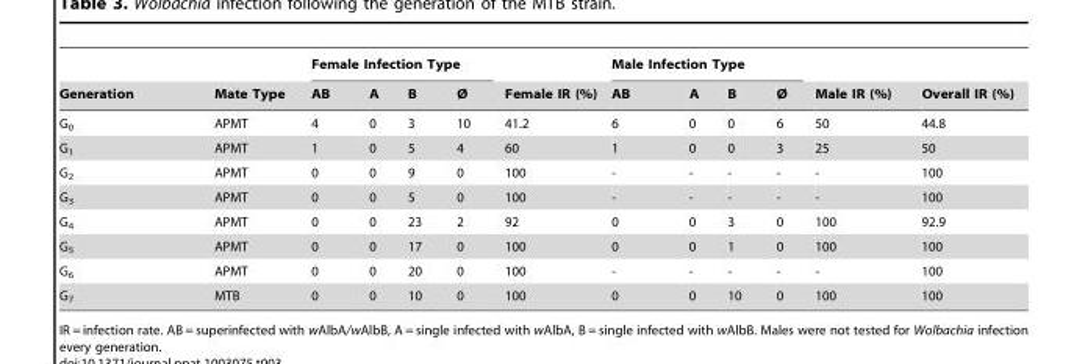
<table><thead><tr><td rowspan="2">Generation</td><td rowspan="2">Mate Type</td><td colspan="4">Female Infection Type</td><td rowspan="2">Female IR (%)</td><td colspan="4">Male Infection Type</td><td rowspan="2">Male IR (%)</td><td rowspan="2">Overall IR (%)</td></tr><tr><td>AB</td><td>A</td><td>B</td><td>Ø</td><td>AB</td><td>A</td><td>B</td><td>Ø</td></tr></thead><tbody><tr><td>G<sub>0</sub></td><td>APMT</td><td>4</td><td>0</td><td>3</td><td>10</td><td>41.2</td><td>6</td><td>0</td><td>0</td><td>6</td><td>50</td><td>44.8</td></tr><tr><td>G<sub>1</sub></td><td>APMT</td><td>1</td><td>0</td><td>5</td><td>4</td><td>60</td><td>1</td><td>0</td><td>0</td><td>3</td><td>25</td><td>50</td></tr><tr><td>G<sub>2</sub></td><td>APMT</td><td>0</td><td>0</td><td>9</td><td>0</td><td>100</td><td>-</td><td>-</td><td>-</td><td>-</td><td>-</td><td>100</td></tr><tr><td>G<sub>3</sub></td><td>APMT</td><td>0</td><td>0</td><td>5</td><td>0</td><td>100</td><td>-</td><td>-</td><td>-</td><td>-</td><td>-</td><td>100</td></tr><tr><td>G<sub>4</sub></td><td>APMT</td><td>0</td><td>0</td><td>23</td><td>2</td><td>92</td><td>0</td><td>0</td><td>3</td><td>0</td><td>100</td><td>92.9</td></tr><tr><td>G<sub>5</sub></td><td>APMT</td><td>0</td><td>0</td><td>17</td><td>0</td><td>100</td><td>0</td><td>0</td><td>1</td><td>0</td><td>100</td><td>100</td></tr><tr><td>G<sub>6</sub></td><td>APMT</td><td>0</td><td>0</td><td>20</td><td>0</td><td>100</td><td>-</td><td>-</td><td>-</td><td>-</td><td>-</td><td>100</td></tr><tr><td>G<sub>7</sub></td><td>MTB</td><td>0</td><td>0</td><td>10</td><td>0</td><td>100</td><td>0</td><td>0</td><td>10</td><td>0</td><td>100</td><td>100</td></tr></tbody></table>